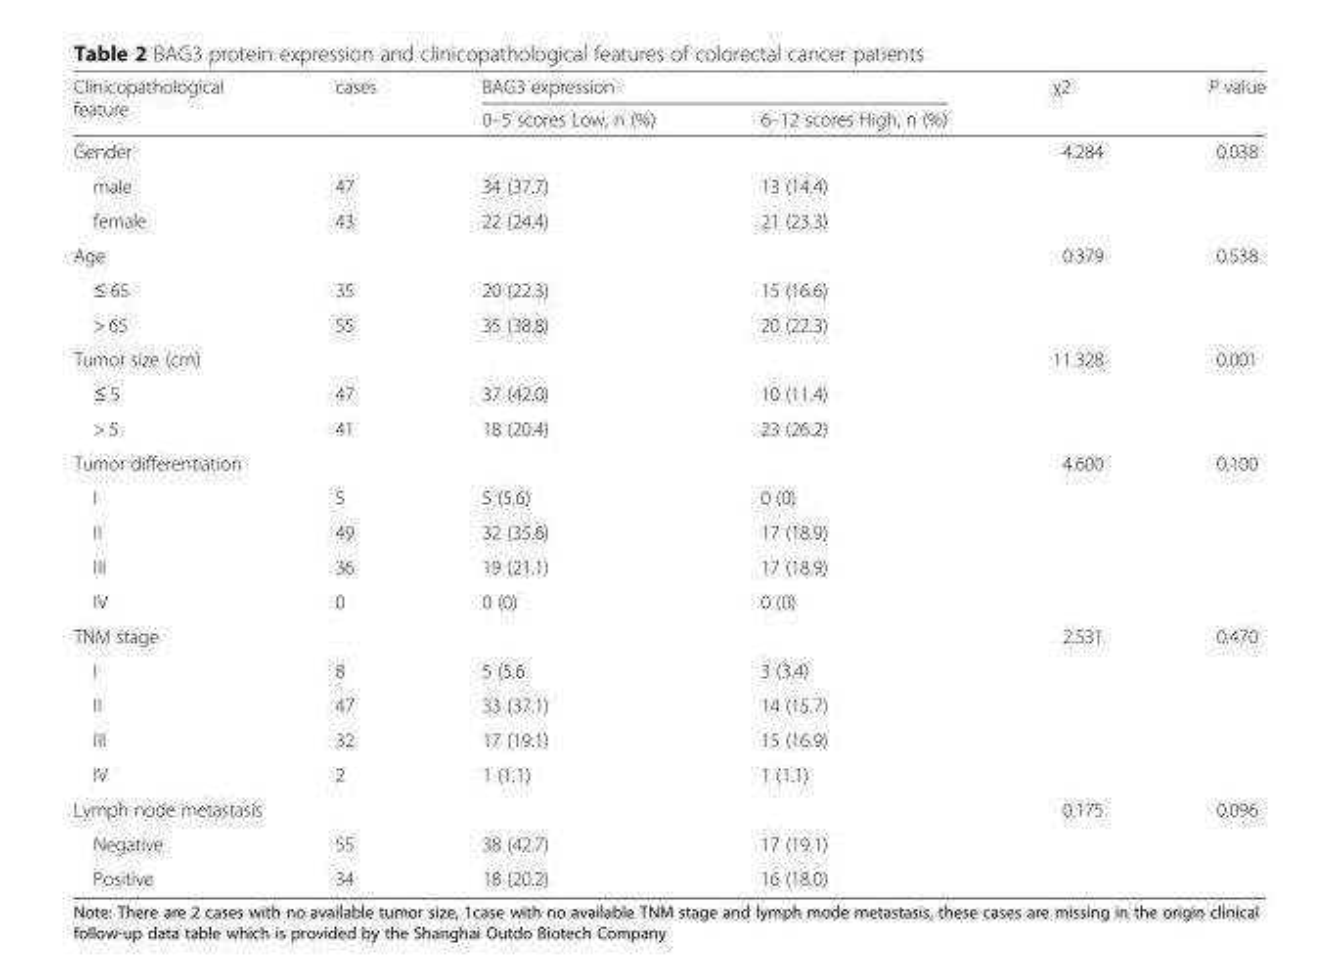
<table><thead><tr><td rowspan="2">Clinicopathological feature</td><td rowspan="2">cases</td><td colspan="2">BAG3 expression</td><td rowspan="2">χ2</td><td rowspan="2">P value</td></tr><tr><td>0–5 scores Low, n (%)</td><td>6–12 scores High, n (%)</td></tr></thead><tbody><tr><td colspan="4">Gender</td><td rowspan="3">4.284</td><td rowspan="3">0.038</td></tr><tr><td>male</td><td>47</td><td>34 (37.7)</td><td>13 (14.4)</td></tr><tr><td>female</td><td>43</td><td>22 (24.4)</td><td>21 (23.3)</td></tr><tr><td colspan="4">Age</td><td rowspan="3">0.379</td><td rowspan="3">0.538</td></tr><tr><td>≤ 65</td><td>35</td><td>20 (22.3)</td><td>15 (16.6)</td></tr><tr><td>&gt; 65</td><td>55</td><td>35 (38.8)</td><td>20 (22.3)</td></tr><tr><td colspan="4">Tumor size (cm)</td><td rowspan="3">11.328</td><td rowspan="3">0.001</td></tr><tr><td>≤ 5</td><td>47</td><td>37 (42.0)</td><td>10 (11.4)</td></tr><tr><td>&gt; 5</td><td>41</td><td>18 (20.4)</td><td>23 (26.2)</td></tr><tr><td colspan="4">Tumor differentiation</td><td rowspan="5">4.600</td><td rowspan="5">0.100</td></tr><tr><td>I</td><td>5</td><td>5 (5.6)</td><td>0 (0)</td></tr><tr><td>II</td><td>49</td><td>32 (35.6)</td><td>17 (18.9)</td></tr><tr><td>III</td><td>36</td><td>19 (21.1)</td><td>17 (18.9)</td></tr><tr><td>IV</td><td>0</td><td>0 (0)</td><td>0 (0)</td></tr><tr><td colspan="4">TNM stage</td><td rowspan="5">2.531</td><td rowspan="5">0.470</td></tr><tr><td>I</td><td>8</td><td>5 (5.6</td><td>3 (3.4)</td></tr><tr><td>II</td><td>47</td><td>33 (37.1)</td><td>14 (15.7)</td></tr><tr><td>III</td><td>32</td><td>17 (19.1)</td><td>15 (16.9)</td></tr><tr><td>IV</td><td>2</td><td>1 (1.1)</td><td>1 (1.1)</td></tr><tr><td colspan="4">Lymph node metastasis</td><td rowspan="3">0.175</td><td rowspan="3">0.096</td></tr><tr><td>Negative</td><td>55</td><td>38 (42.7)</td><td>17 (19.1)</td></tr><tr><td>Positive</td><td>34</td><td>18 (20.2)</td><td>16 (18.0)</td></tr></tbody></table>